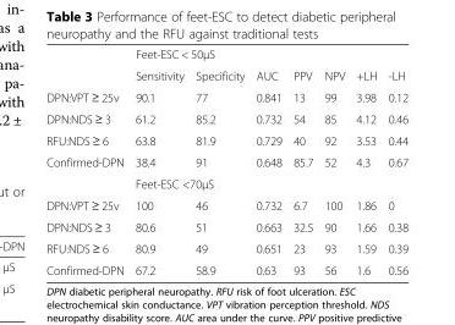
<table><thead><tr><td rowspan="2"></td><td colspan="7">Feet-ESC &lt; 50μS</td></tr><tr><td>Sensitivity</td><td>Specificity</td><td>AUC</td><td>PPV</td><td>NPV</td><td>+LH</td><td>-LH</td></tr></thead><tbody><tr><td>DPN:VPT ≥ 25v</td><td>90.1</td><td>77</td><td>0.841</td><td>13</td><td>99</td><td>3.98</td><td>0.12</td></tr><tr><td>DPN:NDS ≥ 3</td><td>61.2</td><td>85.2</td><td>0.732</td><td>54</td><td>85</td><td>4.12</td><td>0.46</td></tr><tr><td>RFU:NDS ≥ 6</td><td>63.8</td><td>81.9</td><td>0.729</td><td>40</td><td>92</td><td>3.53</td><td>0.44</td></tr><tr><td rowspan="2">Confirmed-DPN</td><td>38.4</td><td>91</td><td>0.648</td><td>85.7</td><td>52</td><td>4.3</td><td>0.67</td></tr><tr><td colspan="7">Feet-ESC &lt;70μS</td></tr><tr><td>DPN:VPT ≥ 25v</td><td>100</td><td>46</td><td>0.732</td><td>6.7</td><td>100</td><td>1.86</td><td>0</td></tr><tr><td>DPN:NDS ≥ 3</td><td>80.6</td><td>51</td><td>0.663</td><td>32.5</td><td>90</td><td>1.66</td><td>0.38</td></tr><tr><td>RFU:NDS ≥ 6</td><td>80.9</td><td>49</td><td>0.651</td><td>23</td><td>93</td><td>1.59</td><td>0.39</td></tr><tr><td>Confirmed-DPN</td><td>67.2</td><td>58.9</td><td>0.63</td><td>93</td><td>56</td><td>1.6</td><td>0.56</td></tr></tbody></table>